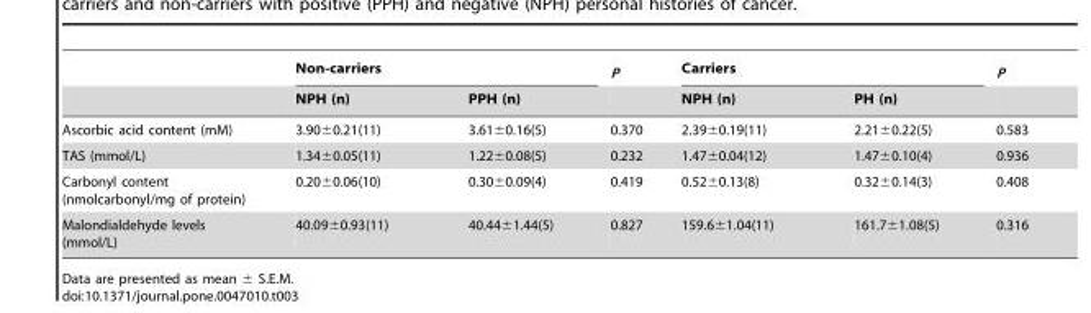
<table><thead><tr><td rowspan="2"></td><td colspan="2">Non-carriers</td><td rowspan="2">P</td><td colspan="2">Carriers</td><td rowspan="2">P</td></tr><tr><td>NPH (n)</td><td>PPH (n)</td><td>NPH (n)</td><td>PH (n)</td></tr></thead><tbody><tr><td>Ascorbic acid content (mM)</td><td>3.90±0.21(11)</td><td>3.61±0.16(5)</td><td>0.370</td><td>2.39±0.19(11)</td><td>2.21±0.22(5)</td><td>0.583</td></tr><tr><td>TAS (mmol/L)</td><td>1.34±0.05(11)</td><td>1.22±0.08(5)</td><td>0.232</td><td>1.47±0.04(12)</td><td>1.47±0.10(4)</td><td>0.936</td></tr><tr><td>Carbonyl content (nmolcarbonyl/mg of protein)</td><td>0.20±0.06(10)</td><td>0.30±0.09(4)</td><td>0.419</td><td>0.52±0.13(8)</td><td>0.32±0.14(3)</td><td>0.408</td></tr><tr><td>Malondialdehyde levels (mmol/L)</td><td>40.09±0.93(11)</td><td>40.44±1.44(5)</td><td>0.827</td><td>159.6±1.04(11)</td><td>161.7±1.08(5)</td><td>0.316</td></tr></tbody></table>